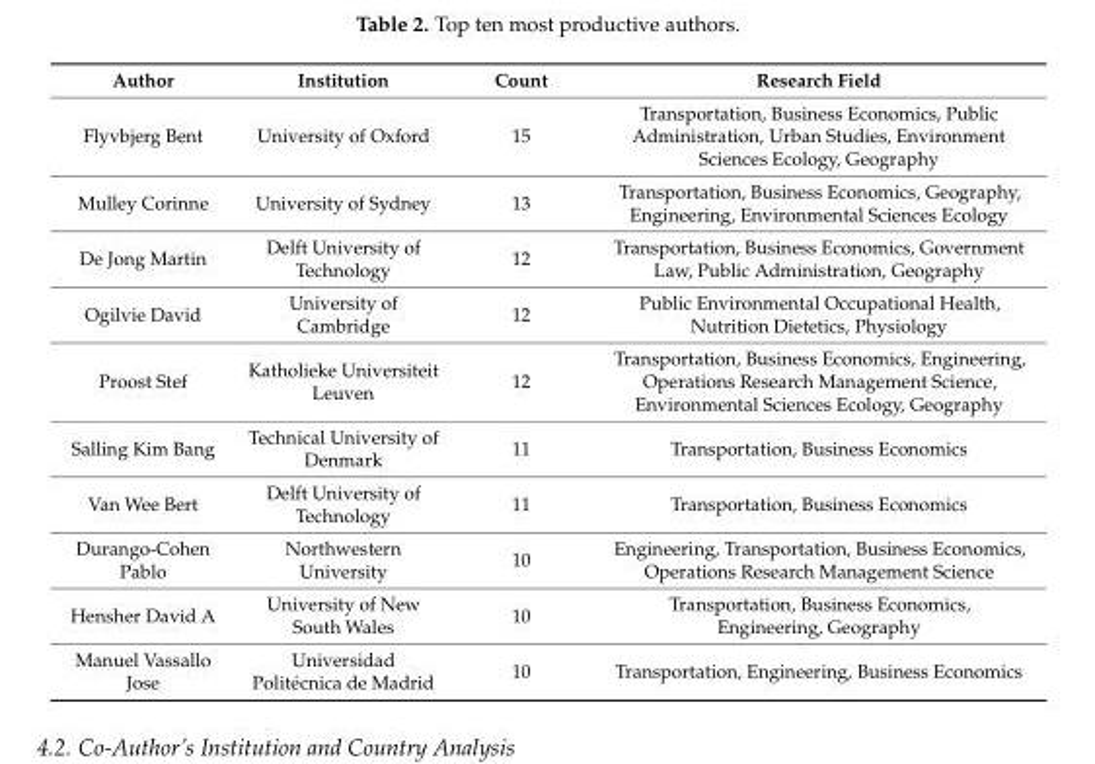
<table><thead><tr><td>Author</td><td>Institution</td><td>Count</td><td>Research Field</td></tr></thead><tbody><tr><td>Flyvbjerg Bent</td><td>University of Oxford</td><td>15</td><td>Transportation, Business Economics, Public Administration, Urban Studies, Environment Sciences Ecology, Geography</td></tr><tr><td>Mulley Corinne</td><td>University of Sydney</td><td>13</td><td>Transportation, Business Economics, Geography, Engineering, Environmental Sciences Ecology</td></tr><tr><td>De Jong Martin</td><td>Delft University of Technology</td><td>12</td><td>Transportation, Business Economics, Government Law, Public Administration, Geography</td></tr><tr><td>Ogilvie David</td><td>University of Cambridge</td><td>12</td><td>Public Environmental Occupational Health, Nutrition Dietetics, Physiology</td></tr><tr><td>Proost Stef</td><td>Katholieke Universiteit Leuven</td><td>12</td><td>Transportation, Business Economics, Engineering, Operations Research Management Science, Environmental Sciences Ecology, Geography</td></tr><tr><td>Salling Kim Bang</td><td>Technical University of Denmark</td><td>11</td><td>Transportation, Business Economics</td></tr><tr><td>Van Wee Bert</td><td>Delft University of Technology</td><td>11</td><td>Transportation, Business Economics</td></tr><tr><td>Durango-Cohen Pablo</td><td>Northwestern University</td><td>10</td><td>Engineering, Transportation, Business Economics, Operations Research Management Science</td></tr><tr><td>Hensher David A</td><td>University of New South Wales</td><td>10</td><td>Transportation, Business Economics, Engineering, Geography</td></tr><tr><td>Manuel Vassallo Jose</td><td>Universidad Politécnica de Madrid</td><td>10</td><td>Transportation, Engineering, Business Economics</td></tr></tbody></table>